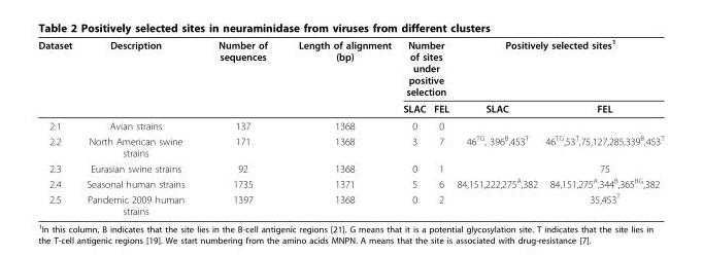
<table><thead><tr><td rowspan="2">Dataset</td><td rowspan="2">Description</td><td rowspan="2">Number of sequences</td><td rowspan="2">Length of alignment (bp)</td><td colspan="2">Number of sites under positive selection</td><td colspan="2">Positively selected sites<sup>1</sup></td></tr><tr><td>SLAC</td><td>FEL</td><td>SLAC</td><td>FEL</td></tr></thead><tbody><tr><td>2.1</td><td>Avian strains</td><td>137</td><td>1368</td><td>0</td><td>0</td><td></td><td></td></tr><tr><td>2.2</td><td>North American swine strains</td><td>171</td><td>1368</td><td>3</td><td>7</td><td>46<sup>TG</sup>, 396<sup>B</sup>,453<sup>T</sup></td><td>46<sup>TG</sup>,53<sup>T</sup>,75,127,285,339<sup>B</sup>,453<sup>T</sup></td></tr><tr><td>2.3</td><td>Eurasian swine strains</td><td>92</td><td>1368</td><td>0</td><td>1</td><td></td><td>75</td></tr><tr><td>2.4</td><td>Seasonal human strains</td><td>1735</td><td>1371</td><td>5</td><td>6</td><td>84,151,222,275<sup>A</sup>,382</td><td>84,151,275<sup>A</sup>,344<sup>B</sup>,365<sup>BG</sup>,382</td></tr><tr><td>2.5</td><td>Pandemic 2009 human strains</td><td>1397</td><td>1368</td><td>0</td><td>2</td><td></td><td>35,453<sup>T</sup></td></tr></tbody></table>